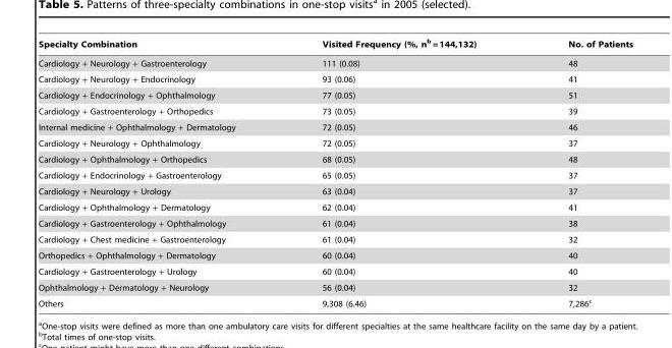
<table><thead><tr><td>Specialty Combination</td><td>Visited Frequency (%, n<sup>b</sup> = 144,132)</td><td>No. of Patients</td></tr></thead><tbody><tr><td>Cardiology + Neurology + Gastroenterology</td><td>111 (0.08)</td><td>48</td></tr><tr><td>Cardiology + Neurology + Endocrinology</td><td>93 (0.06)</td><td>41</td></tr><tr><td>Cardiology + Endocrinology + Ophthalmology</td><td>77 (0.05)</td><td>51</td></tr><tr><td>Cardiology + Gastroenterology + Orthopedics</td><td>73 (0.05)</td><td>39</td></tr><tr><td>Internal medicine + Ophthalmology + Dermatology</td><td>72 (0.05)</td><td>46</td></tr><tr><td>Cardiology + Neurology + Ophthalmology</td><td>72 (0.05)</td><td>37</td></tr><tr><td>Cardiology + Ophthalmology + Orthopedics</td><td>68 (0.05)</td><td>48</td></tr><tr><td>Cardiology + Endocrinology + Gastroenterology</td><td>65 (0.05)</td><td>37</td></tr><tr><td>Cardiology + Neurology + Urology</td><td>63 (0.04)</td><td>37</td></tr><tr><td>Cardiology + Ophthalmology + Dermatology</td><td>62 (0.04)</td><td>41</td></tr><tr><td>Cardiology + Gastroenterology + Ophthalmology</td><td>61 (0.04)</td><td>38</td></tr><tr><td>Cardiology + Chest medicine + Gastroenterology</td><td>61 (0.04)</td><td>32</td></tr><tr><td>Orthopedics + Ophthalmology + Dermatology</td><td>60 (0.04)</td><td>40</td></tr><tr><td>Cardiology + Gastroenterology + Urology</td><td>60 (0.04)</td><td>40</td></tr><tr><td>Ophthalmology + Dermatology + Neurology</td><td>56 (0.04)</td><td>32</td></tr><tr><td>Others</td><td>9,308 (6.46)</td><td>7,286<sup>c</sup></td></tr></tbody></table>